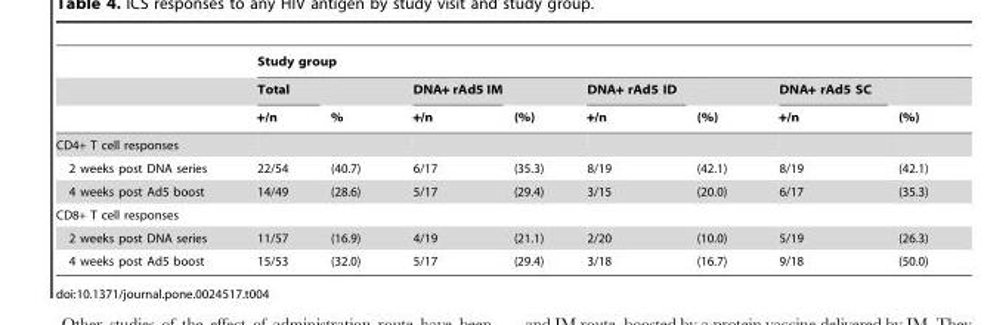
<table><thead><tr><td rowspan="3"></td><td colspan="8">Study group</td></tr><tr><td rowspan="2">Total +/n</td><td rowspan="2">%</td><td rowspan="2">DNA+ rAd5 IM +/n</td><td rowspan="2">(%)</td><td rowspan="2">DNA+ rAd5 ID +/n</td><td rowspan="2">(%)</td><td rowspan="2">DNA+ rAd5 SC +/n</td><td rowspan="2">(%)</td></tr><tr></tr></thead><tbody><tr><td colspan="9">CD4+ T cell responses</td></tr><tr><td>2 weeks post DNA series</td><td>22/54</td><td>(40.7)</td><td>6/17</td><td>(35.3)</td><td>8/19</td><td>(42.1)</td><td>8/19</td><td>(42.1)</td></tr><tr><td>4 weeks post Ad5 boost</td><td>14/49</td><td>(28.6)</td><td>5/17</td><td>(29.4)</td><td>3/15</td><td>(20.0)</td><td>6/17</td><td>(35.3)</td></tr><tr><td colspan="9">CD8+ T cell responses</td></tr><tr><td>2 weeks post DNA series</td><td>11/57</td><td>(16.9)</td><td>4/19</td><td>(21.1)</td><td>2/20</td><td>(10.0)</td><td>5/19</td><td>(26.3)</td></tr><tr><td>4 weeks post Ad5 boost</td><td>15/53</td><td>(32.0)</td><td>5/17</td><td>(29.4)</td><td>3/18</td><td>(16.7)</td><td>9/18</td><td>(50.0)</td></tr></tbody></table>